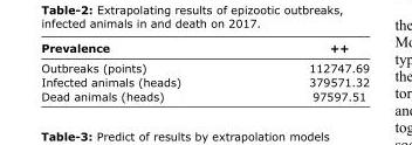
<table><thead><tr><td>Prevalence</td><td>++</td></tr></thead><tbody><tr><td>Outbreaks (points)</td><td>112747.69</td></tr><tr><td>Infected animals (heads)</td><td>379571.32</td></tr><tr><td>Dead animals (heads)</td><td>97597.51</td></tr></tbody></table>